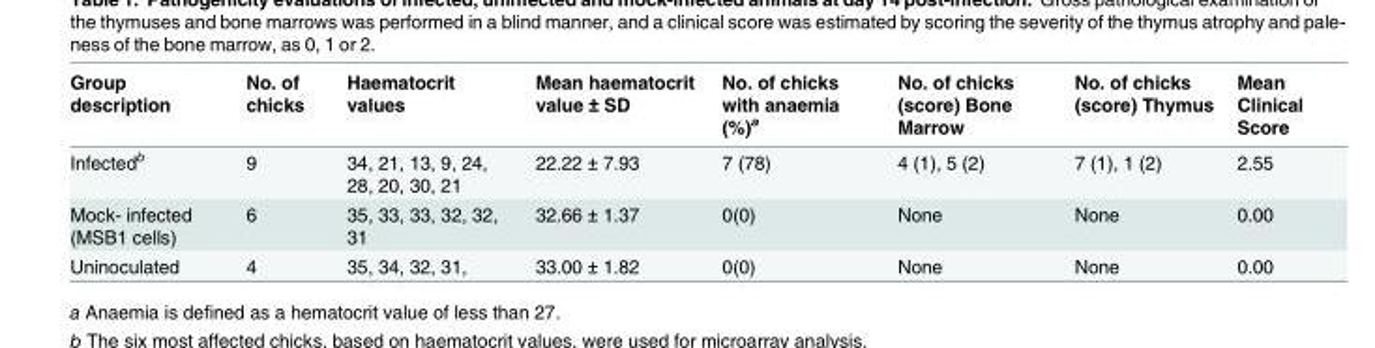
<table><thead><tr><td>Group description</td><td>No. of chicks</td><td>Haematocrit values</td><td>Mean haematocrit value ± SD</td><td>No. of chicks with anaemia (%)<sup>a</sup></td><td>No. of chicks (score) Bone Marrow</td><td>No. of chicks (score) Thymus</td><td>Mean Clinical Score</td></tr></thead><tbody><tr><td>Infected<sup>b</sup></td><td>9</td><td>34, 21, 13, 9, 24, 28, 20, 30, 21</td><td>22.22 ± 7.93</td><td>7 (78)</td><td>4 (1), 5 (2)</td><td>7 (1), 1 (2)</td><td>2.55</td></tr><tr><td>Mock- infected (MSB1 cells)</td><td>6</td><td>35, 33, 33, 32, 32, 31</td><td>32.66 ± 1.37</td><td>0(0)</td><td>None</td><td>None</td><td>0.00</td></tr><tr><td>Uninoculated</td><td>4</td><td>35, 34, 32, 31,</td><td>33.00 ± 1.82</td><td>0(0)</td><td>None</td><td>None</td><td>0.00</td></tr></tbody></table>